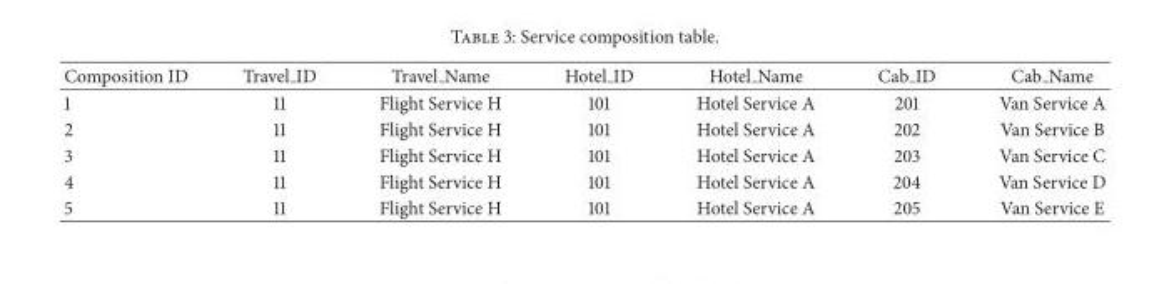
<table><thead><tr><td>Composition ID</td><td>Travel ID</td><td>Travel Name</td><td>Hotel ID</td><td>Hotel Name</td><td>Cab ID</td><td>Cab Name</td></tr></thead><tbody><tr><td>1</td><td>11</td><td>Flight Service H</td><td>101</td><td>Hotel Service A</td><td>201</td><td>Van Service A</td></tr><tr><td>2</td><td>11</td><td>Flight Service H</td><td>101</td><td>Hotel Service A</td><td>202</td><td>Van Service B</td></tr><tr><td>3</td><td>11</td><td>Flight Service H</td><td>101</td><td>Hotel Service A</td><td>203</td><td>Van Service C</td></tr><tr><td>4</td><td>11</td><td>Flight Service H</td><td>101</td><td>Hotel Service A</td><td>204</td><td>Van Service D</td></tr><tr><td>5</td><td>11</td><td>Flight Service H</td><td>101</td><td>Hotel Service A</td><td>205</td><td>Van Service E</td></tr></tbody></table>